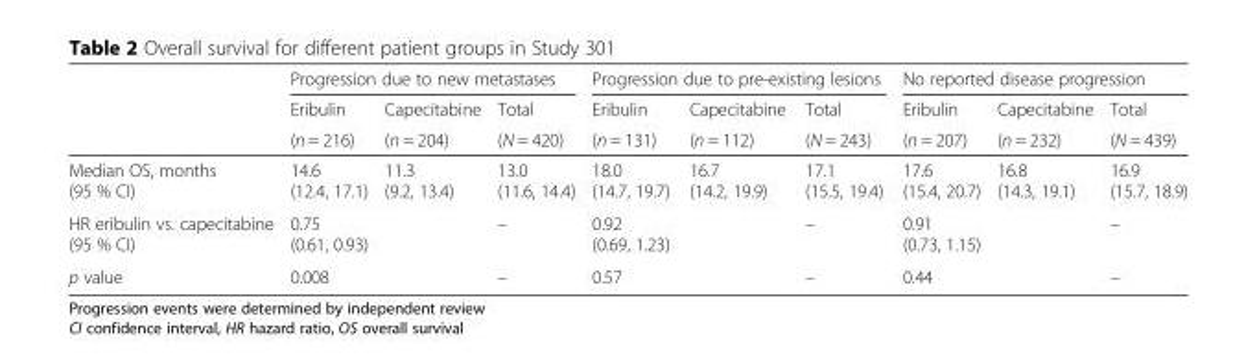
<table><thead><tr><td rowspan="3"></td><td colspan="3">Progression due to new metastases</td><td colspan="3">Progression due to pre-existing lesions</td><td colspan="3">No reported disease progression</td></tr><tr><td rowspan="2">Eribulin (n = 216)</td><td rowspan="2">Capecitabine (n = 204)</td><td rowspan="2">Total (N = 420)</td><td rowspan="2">Eribulin (n = 131)</td><td rowspan="2">Capecitabine (n = 112)</td><td rowspan="2">Total (N = 243)</td><td rowspan="2">Eribulin (n = 207)</td><td rowspan="2">Capecitabine (n = 232)</td><td rowspan="2">Total (N = 439)</td></tr><tr></tr></thead><tbody><tr><td>Median OS, months (95 % CI)</td><td>14.6 (12.4, 17.1)</td><td>11.3 (9.2, 13.4)</td><td>13.0 (11.6, 14.4)</td><td>18.0 (14.7, 19.7)</td><td>16.7 (14.2, 19.9)</td><td>17.1 (15.5, 19.4)</td><td>17.6 (15.4, 20.7)</td><td>16.8 (14.3, 19.1)</td><td>16.9 (15.7, 18.9)</td></tr><tr><td>HR eribulin vs. capecitabine (95 % CI)</td><td colspan="2">0.75 (0.61, 0.93)</td><td>–</td><td colspan="2">0.92 (0.69, 1.23)</td><td>–</td><td colspan="2">0.91 (0.73, 1.15)</td><td>–</td></tr><tr><td>p value</td><td colspan="2">0.008</td><td>–</td><td colspan="2">0.57</td><td>–</td><td colspan="2">0.44</td><td>–</td></tr></tbody></table>